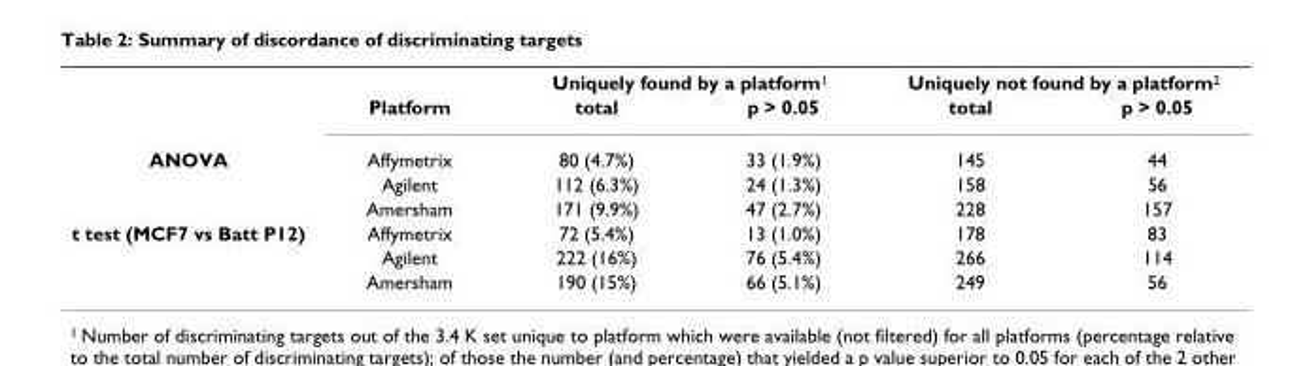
<table><thead><tr><td rowspan="2"></td><td rowspan="2">Platform</td><td colspan="2">Uniquely found by a platform1</td><td colspan="2">Uniquely not found by a platform2</td></tr><tr><td>total</td><td>p &gt; 0.05</td><td>total</td><td>p &gt; 0.05</td></tr></thead><tbody><tr><td rowspan="3">ANOVA</td><td>Affymetrix</td><td>80 (4.7%)</td><td>33 (1.9%)</td><td>145</td><td>44</td></tr><tr><td>Agilent</td><td>112 (6.3%)</td><td>24 (1.3%)</td><td>158</td><td>56</td></tr><tr><td>Amersham</td><td>171 (9.9%)</td><td>47 (2.7%)</td><td>228</td><td>157</td></tr><tr><td rowspan="3">t test (MCF7 vs Batt P12)</td><td>Affymetrix</td><td>72 (5.4%)</td><td>13 (1.0%)</td><td>178</td><td>83</td></tr><tr><td>Agilent</td><td>222 (16%)</td><td>76 (5.4%)</td><td>266</td><td>114</td></tr><tr><td>Amersham</td><td>190 (15%)</td><td>66 (5.1%)</td><td>249</td><td>56</td></tr></tbody></table>